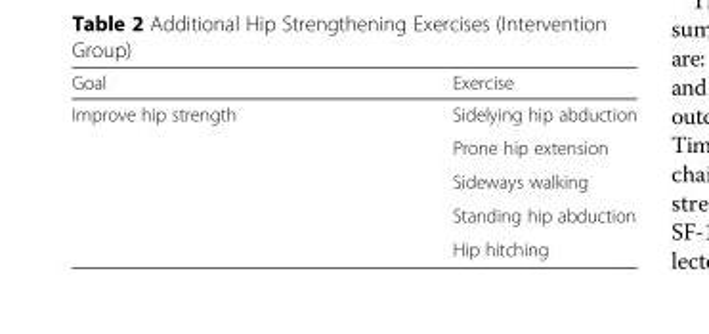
<table><thead><tr><td>Goal</td><td>Exercise</td></tr></thead><tbody><tr><td rowspan="5">Improve hip strength</td><td>Sidelying hip abduction</td></tr><tr><td>Prone hip extension</td></tr><tr><td>Sideways walking</td></tr><tr><td>Standing hip abduction</td></tr><tr><td>Hip hitching</td></tr></tbody></table>